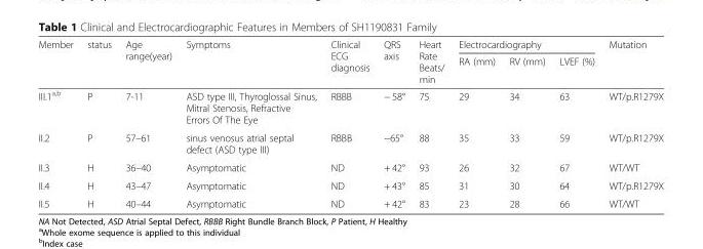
<table><thead><tr><td rowspan="2">Member</td><td rowspan="2">status</td><td rowspan="2">Age range(year)</td><td rowspan="2">Symptoms</td><td rowspan="2">Clinical ECG diagnosis</td><td rowspan="2">QRS axis</td><td rowspan="2">Heart Rate Beats/ min</td><td colspan="3">Electrocardiography</td><td rowspan="2">Mutation</td></tr><tr><td>RA (mm)</td><td>RV (mm)</td><td>LVEF (%)</td></tr></thead><tbody><tr><td>III.1<sup>a,b</sup></td><td>P</td><td>7-11</td><td>ASD type III, Thyroglossal Sinus, Mitral Stenosis, Refractive Errors Of The Eye</td><td>RBBB</td><td>− 58°</td><td>75</td><td>29</td><td>34</td><td>63</td><td>WT/p.R1279X</td></tr><tr><td>II.2</td><td>P</td><td>57–61</td><td>sinus venosus atrial septal defect (ASD type III)</td><td>RBBB</td><td>−65°</td><td>88</td><td>35</td><td>33</td><td>59</td><td>WT/p.R1279X</td></tr><tr><td>II.3</td><td>H</td><td>36–40</td><td>Asymptomatic</td><td>ND</td><td>+ 42°</td><td>93</td><td>26</td><td>32</td><td>67</td><td>WT/WT</td></tr><tr><td>II.4</td><td>H</td><td>43–47</td><td>Asymptomatic</td><td>ND</td><td>+ 43°</td><td>85</td><td>31</td><td>30</td><td>64</td><td>WT/p.R1279X</td></tr><tr><td>II.5</td><td>H</td><td>40–44</td><td>Asymptomatic</td><td>ND</td><td>+ 42°</td><td>83</td><td>23</td><td>28</td><td>66</td><td>WT/WT</td></tr></tbody></table>